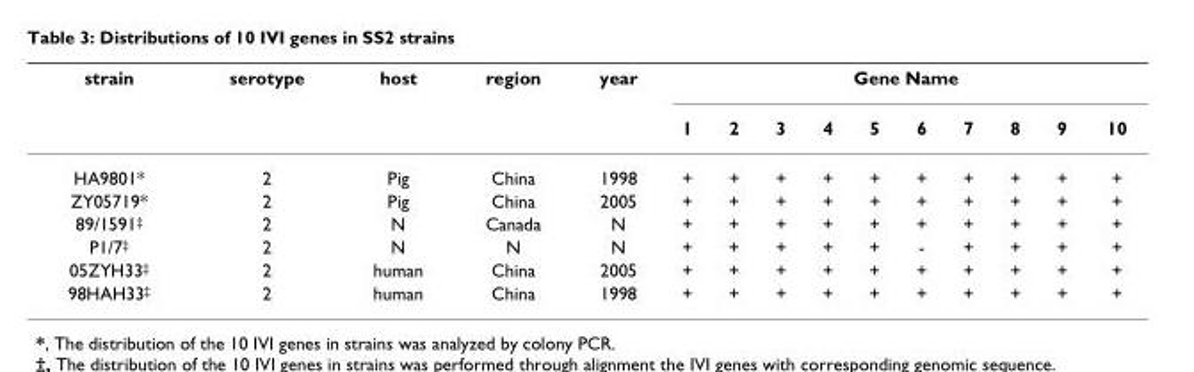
<table><thead><tr><td rowspan="2">strain</td><td rowspan="2">serotype</td><td rowspan="2">host</td><td rowspan="2">region</td><td rowspan="2">year</td><td colspan="10">Gene Name</td></tr><tr><td>1</td><td>2</td><td>3</td><td>4</td><td>5</td><td>6</td><td>7</td><td>8</td><td>9</td><td>10</td></tr></thead><tbody><tr><td>HA9801*</td><td>2</td><td>Pig</td><td>China</td><td>1998</td><td>+</td><td>+</td><td>+</td><td>+</td><td>+</td><td>+</td><td>+</td><td>+</td><td>+</td><td>+</td></tr><tr><td>ZY05719*</td><td>2</td><td>Pig</td><td>China</td><td>2005</td><td>+</td><td>+</td><td>+</td><td>+</td><td>+</td><td>+</td><td>+</td><td>+</td><td>+</td><td>+</td></tr><tr><td>89/1591<sup>‡</sup></td><td>2</td><td>N</td><td>Canada</td><td>N</td><td>+</td><td>+</td><td>+</td><td>+</td><td>+</td><td>+</td><td>+</td><td>+</td><td>+</td><td>+</td></tr><tr><td>P1/7<sup>‡</sup></td><td>2</td><td>N</td><td>N</td><td>N</td><td>+</td><td>+</td><td>+</td><td>+</td><td>+</td><td>-</td><td>+</td><td>+</td><td>+</td><td>+</td></tr><tr><td>05ZYH33<sup>‡</sup></td><td>2</td><td>human</td><td>China</td><td>2005</td><td>+</td><td>+</td><td>+</td><td>+</td><td>+</td><td>+</td><td>+</td><td>+</td><td>+</td><td>+</td></tr><tr><td>98HAH33<sup>‡</sup></td><td>2</td><td>human</td><td>China</td><td>1998</td><td>+</td><td>+</td><td>+</td><td>+</td><td>+</td><td>+</td><td>+</td><td>+</td><td>+</td><td>+</td></tr></tbody></table>